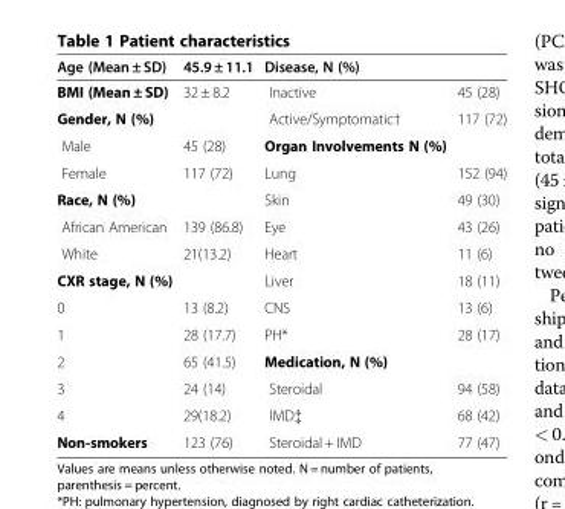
<table><thead><tr><td>Age (Mean ± SD)</td><td>45.9 ± 11.1</td><td>Disease, N (%)</td><td></td></tr></thead><tbody><tr><td>BMI (Mean ± SD)</td><td>32 ± 8.2</td><td>Inactive</td><td>45 (28)</td></tr><tr><td>Gender, N (%)</td><td></td><td>Active/Symptomatic†</td><td>117 (72)</td></tr><tr><td>Male</td><td>45 (28)</td><td>Organ Involvements N (%)</td><td></td></tr><tr><td>Female</td><td>117 (72)</td><td>Lung</td><td>152 (94)</td></tr><tr><td>Race, N (%)</td><td></td><td>Skin</td><td>49 (30)</td></tr><tr><td>African American</td><td>139 (86.8)</td><td>Eye</td><td>43 (26)</td></tr><tr><td>White</td><td>21(13.2)</td><td>Heart</td><td>11 (6)</td></tr><tr><td>CXR stage, N (%)</td><td></td><td>Liver</td><td>18 (11)</td></tr><tr><td>0</td><td>13 (8.2)</td><td>CNS</td><td>13 (6)</td></tr><tr><td>1</td><td>28 (17.7)</td><td>PH*</td><td>28 (17)</td></tr><tr><td>2</td><td>65 (41.5)</td><td>Medication, N (%)</td><td></td></tr><tr><td>3</td><td>24 (14)</td><td>Steroidal</td><td>94 (58)</td></tr><tr><td>4</td><td>29(18.2)</td><td>IMD‡</td><td>68 (42)</td></tr><tr><td>Non-smokers</td><td>123 (76)</td><td>Steroidal + IMD</td><td>77 (47)</td></tr></tbody></table>